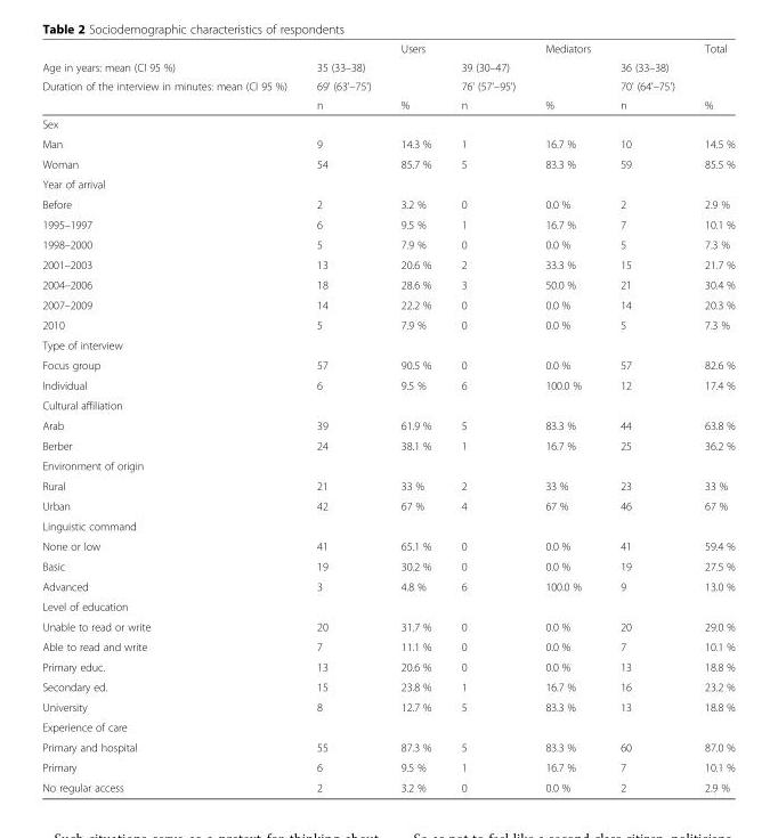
<table><thead><tr><td rowspan="4">Age in years: mean (CI 95 %) Duration of the interview in minutes: mean (CI 95 %)</td><td rowspan="4">35 (33–38) 69&#x27; (63&#x27;–75&#x27;) n</td><td rowspan="4">Users %</td><td rowspan="4">39 (30–47) 76&#x27; (57&#x27;–95&#x27;) n</td><td rowspan="4">Mediators %</td><td rowspan="4">36 (33–38) 70&#x27; (64&#x27;–75&#x27;) n</td><td rowspan="4">Total %</td></tr><tr></tr><tr></tr><tr></tr></thead><tbody><tr><td colspan="7">Sex</td></tr><tr><td>Man</td><td>9</td><td>14.3 %</td><td>1</td><td>16.7 %</td><td>10</td><td>14.5 %</td></tr><tr><td>Woman</td><td>54</td><td>85.7 %</td><td>5</td><td>83.3 %</td><td>59</td><td>85.5 %</td></tr><tr><td colspan="7">Year of arrival</td></tr><tr><td>Before</td><td>2</td><td>3.2 %</td><td>0</td><td>0.0 %</td><td>2</td><td>2.9 %</td></tr><tr><td>1995–1997</td><td>6</td><td>9.5 %</td><td>1</td><td>16.7 %</td><td>7</td><td>10.1 %</td></tr><tr><td>1998–2000</td><td>5</td><td>7.9 %</td><td>0</td><td>0.0 %</td><td>5</td><td>7.3 %</td></tr><tr><td>2001–2003</td><td>13</td><td>20.6 %</td><td>2</td><td>33.3 %</td><td>15</td><td>21.7 %</td></tr><tr><td>2004–2006</td><td>18</td><td>28.6 %</td><td>3</td><td>50.0 %</td><td>21</td><td>30.4 %</td></tr><tr><td>2007–2009</td><td>14</td><td>22.2 %</td><td>0</td><td>0.0 %</td><td>14</td><td>20.3 %</td></tr><tr><td>2010</td><td>5</td><td>7.9 %</td><td>0</td><td>0.0 %</td><td>5</td><td>7.3 %</td></tr><tr><td colspan="7">Type of interview</td></tr><tr><td>Focus group</td><td>57</td><td>90.5 %</td><td>0</td><td>0.0 %</td><td>57</td><td>82.6 %</td></tr><tr><td>Individual</td><td>6</td><td>9.5 %</td><td>6</td><td>100.0 %</td><td>12</td><td>17.4 %</td></tr><tr><td colspan="7">Cultural affiliation</td></tr><tr><td>Arab</td><td>39</td><td>61.9 %</td><td>5</td><td>83.3 %</td><td>44</td><td>63.8 %</td></tr><tr><td>Berber</td><td>24</td><td>38.1 %</td><td>1</td><td>16.7 %</td><td>25</td><td>36.2 %</td></tr><tr><td colspan="7">Environment of origin</td></tr><tr><td>Rural</td><td>21</td><td>33 %</td><td>2</td><td>33 %</td><td>23</td><td>33 %</td></tr><tr><td>Urban</td><td>42</td><td>67 %</td><td>4</td><td>67 %</td><td>46</td><td>67 %</td></tr><tr><td colspan="7">Linguistic command</td></tr><tr><td>None or low</td><td>41</td><td>65.1 %</td><td>0</td><td>0.0 %</td><td>41</td><td>59.4 %</td></tr><tr><td>Basic</td><td>19</td><td>30.2 %</td><td>0</td><td>0.0 %</td><td>19</td><td>27.5 %</td></tr><tr><td>Advanced</td><td>3</td><td>4.8 %</td><td>6</td><td>100.0 %</td><td>9</td><td>13.0 %</td></tr><tr><td colspan="7">Level of education</td></tr><tr><td>Unable to read or write</td><td>20</td><td>31.7 %</td><td>0</td><td>0.0 %</td><td>20</td><td>29.0 %</td></tr><tr><td>Able to read and write</td><td>7</td><td>11.1 %</td><td>0</td><td>0.0 %</td><td>7</td><td>10.1 %</td></tr><tr><td>Primary educ.</td><td>13</td><td>20.6 %</td><td>0</td><td>0.0 %</td><td>13</td><td>18.8 %</td></tr><tr><td>Secondary ed.</td><td>15</td><td>23.8 %</td><td>1</td><td>16.7 %</td><td>16</td><td>23.2 %</td></tr><tr><td>University</td><td>8</td><td>12.7 %</td><td>5</td><td>83.3 %</td><td>13</td><td>18.8 %</td></tr><tr><td colspan="7">Experience of care</td></tr><tr><td>Primary and hospital</td><td>55</td><td>87.3 %</td><td>5</td><td>83.3 %</td><td>60</td><td>87.0 %</td></tr><tr><td>Primary</td><td>6</td><td>9.5 %</td><td>1</td><td>16.7 %</td><td>7</td><td>10.1 %</td></tr><tr><td>No regular access</td><td>2</td><td>3.2 %</td><td>0</td><td>0.0 %</td><td>2</td><td>2.9 %</td></tr></tbody></table>